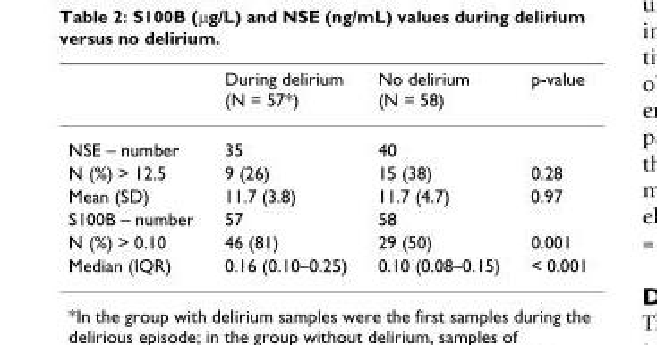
<table><thead><tr><td></td><td>During delirium (N = 57*)</td><td>No delirium (N = 58)</td><td>p-value</td></tr></thead><tbody><tr><td>NSE – number</td><td>35</td><td>40</td><td></td></tr><tr><td>N (%) &gt; 12.5</td><td>9 (26)</td><td>15 (38)</td><td>0.28</td></tr><tr><td>Mean (SD)</td><td>11.7 (3.8)</td><td>11.7 (4.7)</td><td>0.97</td></tr><tr><td>S100B – number</td><td>57</td><td>58</td><td></td></tr><tr><td>N (%) &gt; 0.10</td><td>46 (81)</td><td>29 (50)</td><td>0.001</td></tr><tr><td>Median (IQR)</td><td>0.16 (0.10–0.25)</td><td>0.10 (0.08–0.15)</td><td>&lt; 0.001</td></tr></tbody></table>